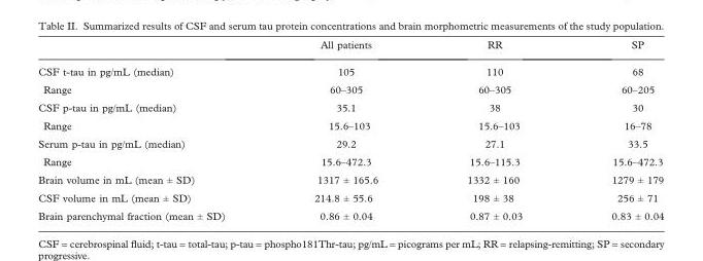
<table><thead><tr><td></td><td>All patients</td><td>RR</td><td>SP</td></tr></thead><tbody><tr><td>CSF t-tau in pg/mL (median)</td><td>105</td><td>110</td><td>68</td></tr><tr><td>Range</td><td>60–305</td><td>60–305</td><td>60–205</td></tr><tr><td>CSF p-tau in pg/mL (median)</td><td>35.1</td><td>38</td><td>30</td></tr><tr><td>Range</td><td>15.6–103</td><td>15.6–103</td><td>16–78</td></tr><tr><td>Serum p-tau in pg/mL (median)</td><td>29.2</td><td>27.1</td><td>33.5</td></tr><tr><td>Range</td><td>15.6–472.3</td><td>15.6–115.3</td><td>15.6–472.3</td></tr><tr><td>Brain volume in mL (mean ± SD)</td><td>1317 ± 165.6</td><td>1332 ± 160</td><td>1279 ± 179</td></tr><tr><td>CSF volume in mL (mean ± SD)</td><td>214.8 ± 55.6</td><td>198 ± 38</td><td>256 ± 71</td></tr><tr><td>Brain parenchymal fraction (mean ± SD)</td><td>0.86 ± 0.04</td><td>0.87 ± 0.03</td><td>0.83 ± 0.04</td></tr></tbody></table>